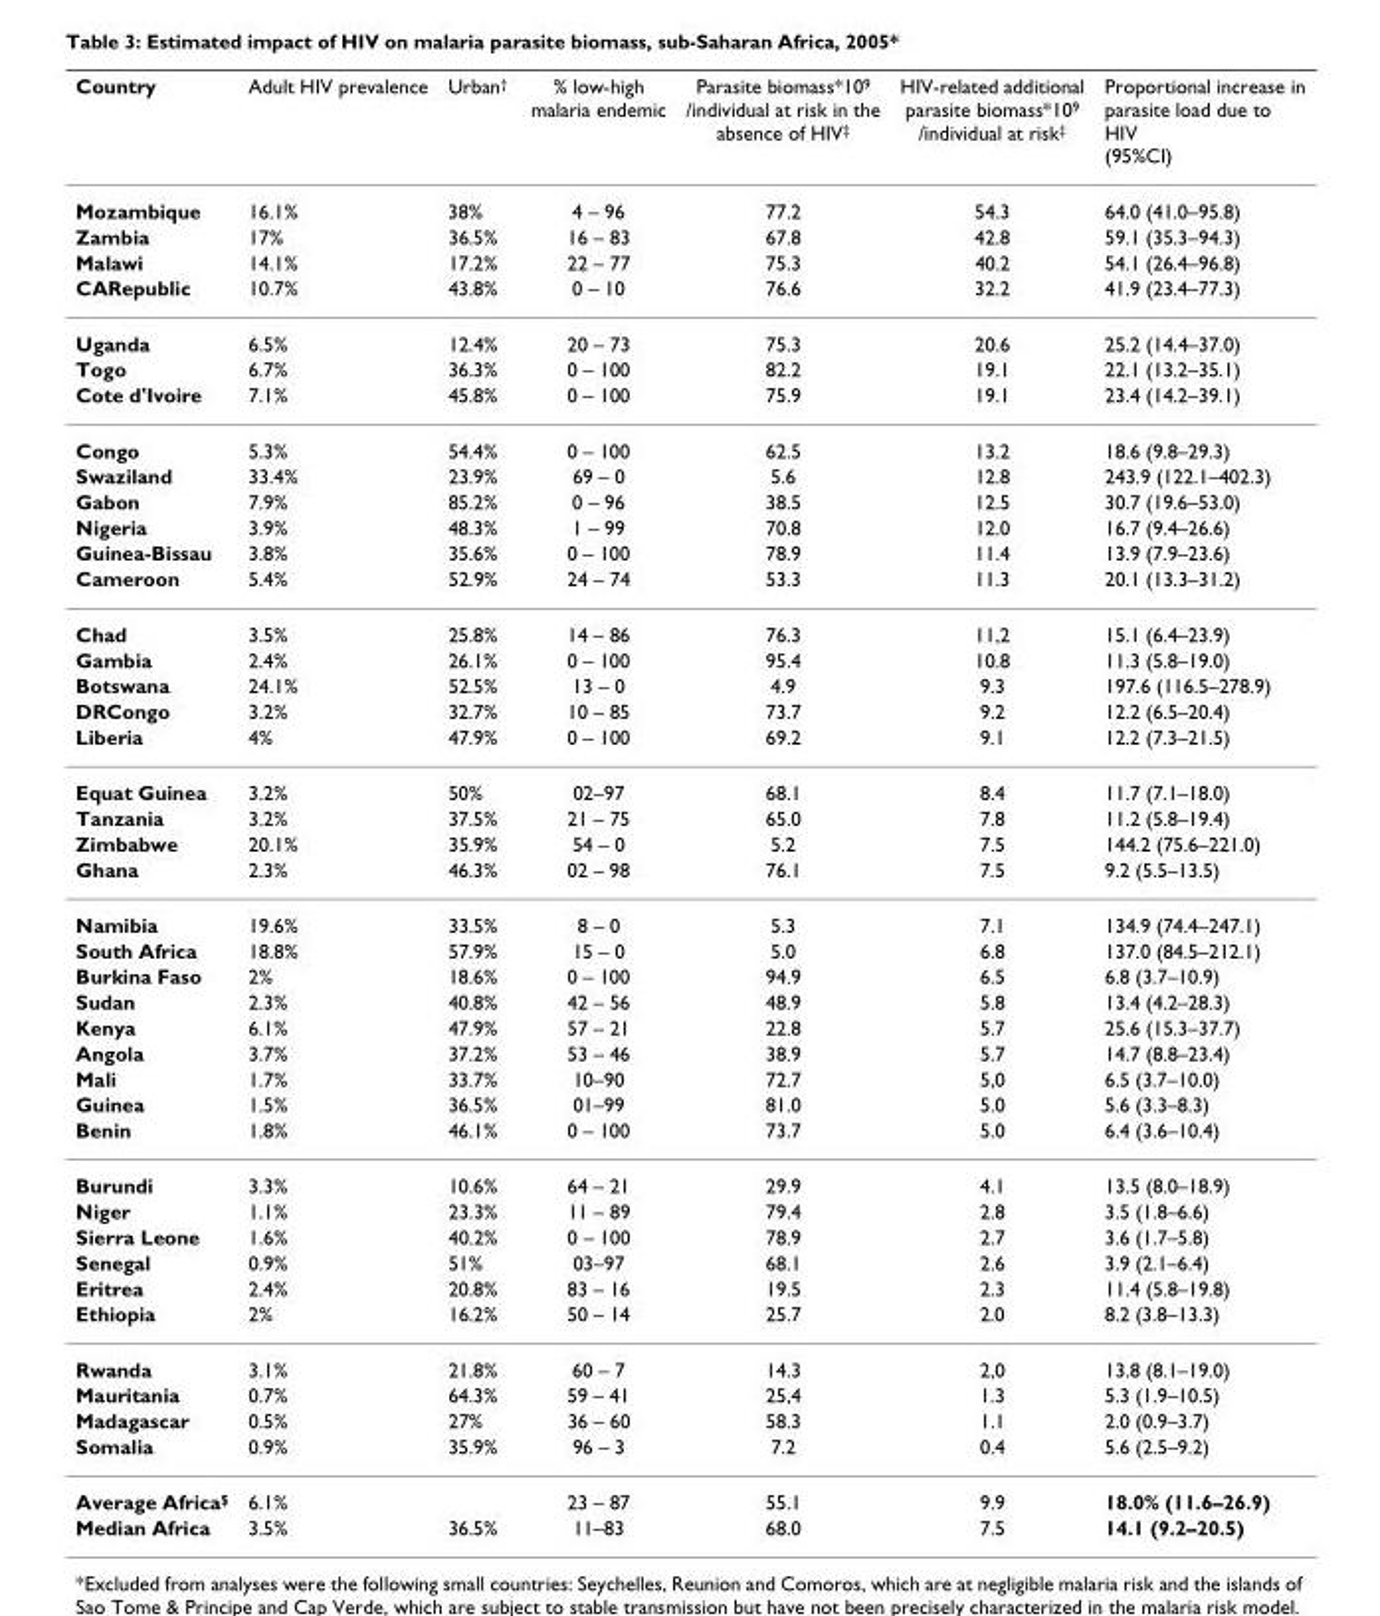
<table><thead><tr><td>Country</td><td>Adult HIV prevalence</td><td>Urban<sup>†</sup></td><td>% low-high malaria endemic</td><td>Parasite biomass*10<sup>9</sup> /individual at risk in the absence of HIV<sup>‡</sup></td><td>HIV-related additional parasite biomass*10<sup>9</sup> /individual at risk<sup>‡</sup></td><td>Proportional increase in parasite load due to HIV (95%CI)</td></tr></thead><tbody><tr><td>Mozambique</td><td>16.1%</td><td>38%</td><td>4 – 96</td><td>77.2</td><td>54.3</td><td>64.0 (41.0–95.8)</td></tr><tr><td>Zambia</td><td>17%</td><td>36.5%</td><td>16 – 83</td><td>67.8</td><td>42.8</td><td>59.1 (35.3–94.3)</td></tr><tr><td>Malawi</td><td>14.1%</td><td>17.2%</td><td>22 – 77</td><td>75.3</td><td>40.2</td><td>54.1 (26.4–96.8)</td></tr><tr><td>CARepublic</td><td>10.7%</td><td>43.8%</td><td>0 – 10</td><td>76.6</td><td>32.2</td><td>41.9 (23.4–77.3)</td></tr><tr><td>Uganda</td><td>6.5%</td><td>12.4%</td><td>20 – 73</td><td>75.3</td><td>20.6</td><td>25.2 (14.4–37.0)</td></tr><tr><td>Togo</td><td>6.7%</td><td>36.3%</td><td>0 – 100</td><td>82.2</td><td>19.1</td><td>22.1 (13.2–35.1)</td></tr><tr><td>Cote d&#x27;Ivoire</td><td>7.1%</td><td>45.8%</td><td>0 – 100</td><td>75.9</td><td>19.1</td><td>23.4 (14.2–39.1)</td></tr><tr><td>Congo</td><td>5.3%</td><td>54.4%</td><td>0 – 100</td><td>62.5</td><td>13.2</td><td>18.6 (9.8–29.3)</td></tr><tr><td>Swaziland</td><td>33.4%</td><td>23.9%</td><td>69 – 0</td><td>5.6</td><td>12.8</td><td>243.9 (122.1–402.3)</td></tr><tr><td>Gabon</td><td>7.9%</td><td>85.2%</td><td>0 – 96</td><td>38.5</td><td>12.5</td><td>30.7 (19.6–53.0)</td></tr><tr><td>Nigeria</td><td>3.9%</td><td>48.3%</td><td>1 – 99</td><td>70.8</td><td>12.0</td><td>16.7 (9.4–26.6)</td></tr><tr><td>Guinea-Bissau</td><td>3.8%</td><td>35.6%</td><td>0 – 100</td><td>78.9</td><td>11.4</td><td>13.9 (7.9–23.6)</td></tr><tr><td>Cameroon</td><td>5.4%</td><td>52.9%</td><td>24 – 74</td><td>53.3</td><td>11.3</td><td>20.1 (13.3–31.2)</td></tr><tr><td>Chad</td><td>3.5%</td><td>25.8%</td><td>14 – 86</td><td>76.3</td><td>11,2</td><td>15.1 (6.4–23.9)</td></tr><tr><td>Gambia</td><td>2.4%</td><td>26.1%</td><td>0 – 100</td><td>95.4</td><td>10.8</td><td>11.3 (5.8–19.0)</td></tr><tr><td>Botswana</td><td>24.1%</td><td>52.5%</td><td>13 – 0</td><td>4.9</td><td>9.3</td><td>197.6 (116.5–278.9)</td></tr><tr><td>DRCongo</td><td>3.2%</td><td>32.7%</td><td>10 – 85</td><td>73.7</td><td>9.2</td><td>12.2 (6.5–20.4)</td></tr><tr><td>Liberia</td><td>4%</td><td>47.9%</td><td>0 – 100</td><td>69.2</td><td>9.1</td><td>12.2 (7.3–21.5)</td></tr><tr><td>Equat Guinea</td><td>3.2%</td><td>50%</td><td>02–97</td><td>68.1</td><td>8.4</td><td>11.7 (7.1–18.0)</td></tr><tr><td>Tanzania</td><td>3.2%</td><td>37.5%</td><td>21 – 75</td><td>65.0</td><td>7.8</td><td>11.2 (5.8–19.4)</td></tr><tr><td>Zimbabwe</td><td>20.1%</td><td>35.9%</td><td>54 – 0</td><td>5.2</td><td>7.5</td><td>144.2 (75.6–221.0)</td></tr><tr><td>Ghana</td><td>2.3%</td><td>46.3%</td><td>02 – 98</td><td>76.1</td><td>7.5</td><td>9.2 (5.5–13.5)</td></tr><tr><td>Namibia</td><td>19.6%</td><td>33.5%</td><td>8 – 0</td><td>5.3</td><td>7.1</td><td>134.9 (74.4–247.1)</td></tr><tr><td>South Africa</td><td>18.8%</td><td>57.9%</td><td>15 – 0</td><td>5.0</td><td>6.8</td><td>137.0 (84.5–212.1)</td></tr><tr><td>Burkina Faso</td><td>2%</td><td>18.6%</td><td>0 – 100</td><td>94.9</td><td>6.5</td><td>6.8 (3.7–10.9)</td></tr><tr><td>Sudan</td><td>2.3%</td><td>40.8%</td><td>42 – 56</td><td>48.9</td><td>5.8</td><td>13.4 (4.2–28.3)</td></tr><tr><td>Kenya</td><td>6.1%</td><td>47.9%</td><td>57 – 21</td><td>22.8</td><td>5.7</td><td>25.6 (15.3–37.7)</td></tr><tr><td>Angola</td><td>3.7%</td><td>37.2%</td><td>53 – 46</td><td>38.9</td><td>5.7</td><td>14.7 (8.8–23.4)</td></tr><tr><td>Mali</td><td>1.7%</td><td>33.7%</td><td>10–90</td><td>72.7</td><td>5,0</td><td>6.5 (3.7–10.0)</td></tr><tr><td>Guinea</td><td>1.5%</td><td>36.5%</td><td>01–99</td><td>81.0</td><td>5.0</td><td>5.6 (3.3–8.3)</td></tr><tr><td>Benin</td><td>1.8%</td><td>46.1%</td><td>0 – 100</td><td>73.7</td><td>5.0</td><td>6.4 (3.6–10.4)</td></tr><tr><td>Burundi</td><td>3.3%</td><td>10.6%</td><td>64 – 21</td><td>29.9</td><td>4.1</td><td>13.5 (8.0–18.9)</td></tr><tr><td>Niger</td><td>1.1%</td><td>23.3%</td><td>11 – 89</td><td>79.4</td><td>2.8</td><td>3.5 (1.8–6.6)</td></tr><tr><td>Sierra Leone</td><td>1.6%</td><td>40.2%</td><td>0 – 100</td><td>78.9</td><td>2.7</td><td>3.6 (1.7–5.8)</td></tr><tr><td>Senegal</td><td>0.9%</td><td>51%</td><td>03–97</td><td>68.1</td><td>2.6</td><td>3.9 (2.1–6.4)</td></tr><tr><td>Eritrea</td><td>2.4%</td><td>20.8%</td><td>83 – 16</td><td>19.5</td><td>2.3</td><td>11.4 (5.8–19.8)</td></tr><tr><td>Ethiopia</td><td>2%</td><td>16.2%</td><td>50 – 14</td><td>25.7</td><td>2.0</td><td>8.2 (3.8–13.3)</td></tr><tr><td>Rwanda</td><td>3.1%</td><td>21.8%</td><td>60 – 7</td><td>14.3</td><td>2,0</td><td>13.8 (8.1–19.0)</td></tr><tr><td>Mauritania</td><td>0.7%</td><td>64.3%</td><td>59 – 41</td><td>25,4</td><td>1.3</td><td>5.3 (1.9–10.5)</td></tr><tr><td>Madagascar</td><td>0.5%</td><td>27%</td><td>36 – 60</td><td>58.3</td><td>1.1</td><td>2.0 (0.9–3.7)</td></tr><tr><td>Somalia</td><td>0.9%</td><td>35.9%</td><td>96 – 3</td><td>7.2</td><td>0.4</td><td>5.6 (2.5–9.2)</td></tr><tr><td>Average Africa<sup>$</sup></td><td>6.1%</td><td></td><td>23 – 87</td><td>55.1</td><td>9.9</td><td>18.0% (11.6–26.9)</td></tr><tr><td>Median Africa</td><td>3.5%</td><td>36.5%</td><td>11–83</td><td>68.0</td><td>7.5</td><td>14.1 (9.2–20.5)</td></tr></tbody></table>